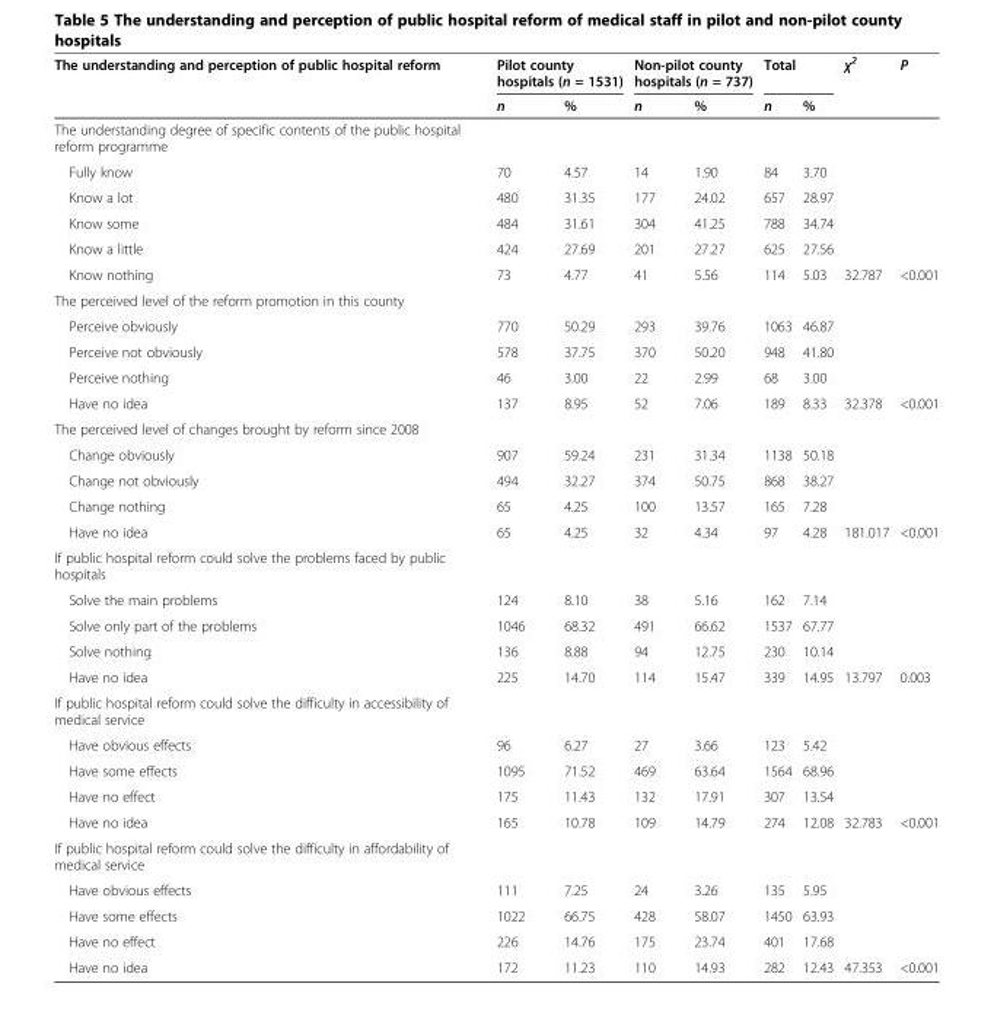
<table><thead><tr><td rowspan="2">The understanding and perception of public hospital reform</td><td colspan="2">Pilot county hospitals (n = 1531)</td><td colspan="2">Non-pilot county hospitals (n = 737)</td><td colspan="2">Total</td><td rowspan="2">χ<sup>2</sup></td><td rowspan="2">P</td></tr><tr><td>n</td><td>%</td><td>n</td><td>%</td><td>n</td><td>%</td></tr></thead><tbody><tr><td colspan="9">The understanding degree of specific contents of the public hospital reform programme</td></tr><tr><td>Fully know</td><td>70</td><td>4.57</td><td>14</td><td>1.90</td><td>84</td><td>3.70</td><td></td><td></td></tr><tr><td>Know a lot</td><td>480</td><td>31.35</td><td>177</td><td>24.02</td><td>657</td><td>28.97</td><td></td><td></td></tr><tr><td>Know some</td><td>484</td><td>31.61</td><td>304</td><td>41.25</td><td>788</td><td>34.74</td><td></td><td></td></tr><tr><td>Know a little</td><td>424</td><td>27.69</td><td>201</td><td>27.27</td><td>625</td><td>27.56</td><td></td><td></td></tr><tr><td>Know nothing</td><td>73</td><td>4.77</td><td>41</td><td>5.56</td><td>114</td><td>5.03</td><td>32.787</td><td>&lt;0.001</td></tr><tr><td colspan="9">The perceived level of the reform promotion in this county</td></tr><tr><td>Perceive obviously</td><td>770</td><td>50.29</td><td>293</td><td>39.76</td><td>1063</td><td>46.87</td><td></td><td></td></tr><tr><td>Perceive not obviously</td><td>578</td><td>37.75</td><td>370</td><td>50.20</td><td>948</td><td>41.80</td><td></td><td></td></tr><tr><td>Perceive nothing</td><td>46</td><td>3.00</td><td>22</td><td>2.99</td><td>68</td><td>3.00</td><td></td><td></td></tr><tr><td>Have no idea</td><td>137</td><td>8.95</td><td>52</td><td>7.06</td><td>189</td><td>8.33</td><td>32.378</td><td>&lt;0.001</td></tr><tr><td colspan="9">The perceived level of changes brought by reform since 2008</td></tr><tr><td>Change obviously</td><td>907</td><td>59.24</td><td>231</td><td>31.34</td><td>1138</td><td>50.18</td><td></td><td></td></tr><tr><td>Change not obviously</td><td>494</td><td>32.27</td><td>374</td><td>50.75</td><td>868</td><td>38.27</td><td></td><td></td></tr><tr><td>Change nothing</td><td>65</td><td>4.25</td><td>100</td><td>13.57</td><td>165</td><td>7.28</td><td></td><td></td></tr><tr><td>Have no idea</td><td>65</td><td>4.25</td><td>32</td><td>4.34</td><td>97</td><td>4.28</td><td>181.017</td><td>&lt;0.001</td></tr><tr><td colspan="9">If public hospital reform could solve the problems faced by public hospitals</td></tr><tr><td>Solve the main problems</td><td>124</td><td>8.10</td><td>38</td><td>5.16</td><td>162</td><td>7.14</td><td></td><td></td></tr><tr><td>Solve only part of the problems</td><td>1046</td><td>68.32</td><td>491</td><td>66.62</td><td>1537</td><td>67.77</td><td></td><td></td></tr><tr><td>Solve nothing</td><td>136</td><td>8.88</td><td>94</td><td>12.75</td><td>230</td><td>10.14</td><td></td><td></td></tr><tr><td>Have no idea</td><td>225</td><td>14.70</td><td>114</td><td>15.47</td><td>339</td><td>14.95</td><td>13.797</td><td>0.003</td></tr><tr><td colspan="9">If public hospital reform could solve the difficulty in accessibility of medical service</td></tr><tr><td>Have obvious effects</td><td>96</td><td>6.27</td><td>27</td><td>3.66</td><td>123</td><td>5.42</td><td></td><td></td></tr><tr><td>Have some effects</td><td>1095</td><td>71.52</td><td>469</td><td>63.64</td><td>1564</td><td>68.96</td><td></td><td></td></tr><tr><td>Have no effect</td><td>175</td><td>11.43</td><td>132</td><td>17.91</td><td>307</td><td>13.54</td><td></td><td></td></tr><tr><td>Have no idea</td><td>165</td><td>10.78</td><td>109</td><td>14.79</td><td>274</td><td>12.08</td><td>32.783</td><td>&lt;0.001</td></tr><tr><td colspan="9">If public hospital reform could solve the difficulty in affordability of medical service</td></tr><tr><td>Have obvious effects</td><td>111</td><td>7.25</td><td>24</td><td>3.26</td><td>135</td><td>5.95</td><td></td><td></td></tr><tr><td>Have some effects</td><td>1022</td><td>66.75</td><td>428</td><td>58.07</td><td>1450</td><td>63.93</td><td></td><td></td></tr><tr><td>Have no effect</td><td>226</td><td>14.76</td><td>175</td><td>23.74</td><td>401</td><td>17.68</td><td></td><td></td></tr><tr><td>Have no idea</td><td>172</td><td>11.23</td><td>110</td><td>14.93</td><td>282</td><td>12.43</td><td>47.353</td><td>&lt;0.001</td></tr></tbody></table>